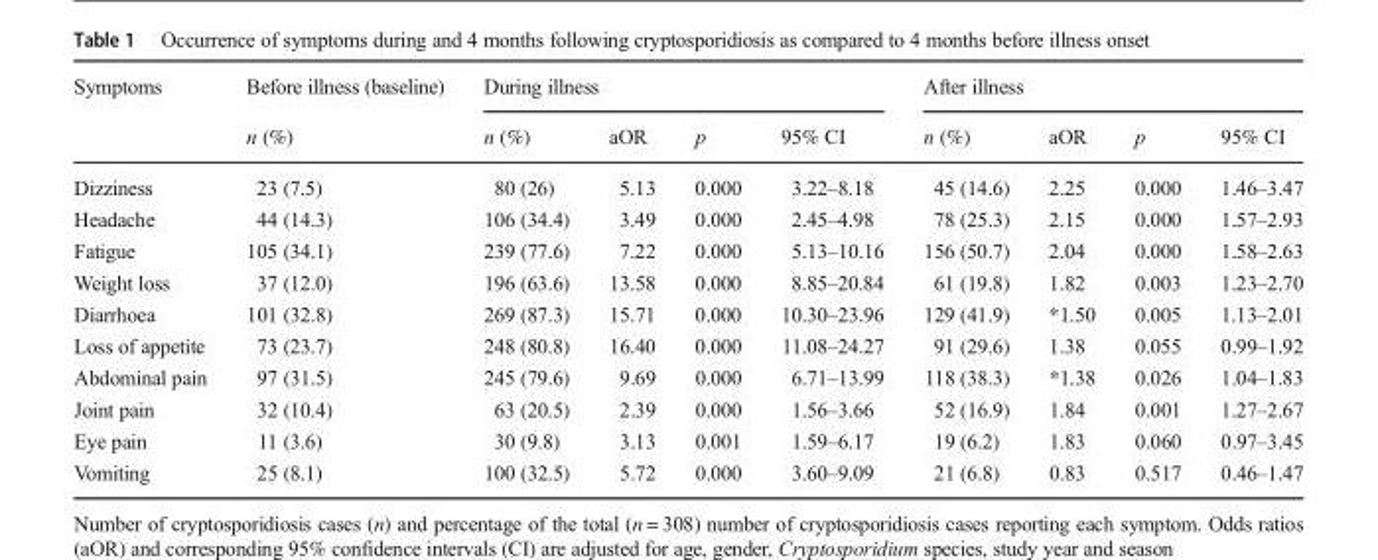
<table><thead><tr><td rowspan="2">Symptoms</td><td rowspan="2">Before illness (baseline) n (%)</td><td colspan="4">During illness</td><td colspan="4">After illness</td></tr><tr><td>n (%)</td><td>aOR</td><td>p</td><td>95% CI</td><td>n (%)</td><td>aOR</td><td>p</td><td>95% CI</td></tr></thead><tbody><tr><td>Dizziness</td><td>23 (7.5)</td><td>80 (26)</td><td>5.13</td><td>0.000</td><td>3.22–8.18</td><td>45 (14.6)</td><td>2.25</td><td>0.000</td><td>1.46–3.47</td></tr><tr><td>Headache</td><td>44 (14.3)</td><td>106 (34.4)</td><td>3.49</td><td>0.000</td><td>2.45–4.98</td><td>78 (25.3)</td><td>2.15</td><td>0.000</td><td>1.57–2.93</td></tr><tr><td>Fatigue</td><td>105 (34.1)</td><td>239 (77.6)</td><td>7.22</td><td>0.000</td><td>5.13–10.16</td><td>156 (50.7)</td><td>2.04</td><td>0.000</td><td>1.58–2.63</td></tr><tr><td>Weight loss</td><td>37 (12.0)</td><td>196 (63.6)</td><td>13.58</td><td>0.000</td><td>8.85–20.84</td><td>61 (19.8)</td><td>1.82</td><td>0.003</td><td>1.23–2.70</td></tr><tr><td>Diarrhoea</td><td>101 (32.8)</td><td>269 (87.3)</td><td>15.71</td><td>0.000</td><td>10.30–23.96</td><td>129 (41.9)</td><td>*1.50</td><td>0.005</td><td>1.13–2.01</td></tr><tr><td>Loss of appetite</td><td>73 (23.7)</td><td>248 (80.8)</td><td>16.40</td><td>0.000</td><td>11.08–24.27</td><td>91 (29.6)</td><td>1.38</td><td>0.055</td><td>0.99–1.92</td></tr><tr><td>Abdominal pain</td><td>97 (31.5)</td><td>245 (79.6)</td><td>9.69</td><td>0.000</td><td>6.71–13.99</td><td>118 (38.3)</td><td>*1.38</td><td>0.026</td><td>1.04–1.83</td></tr><tr><td>Joint pain</td><td>32 (10.4)</td><td>63 (20.5)</td><td>2.39</td><td>0.000</td><td>1.56–3.66</td><td>52 (16.9)</td><td>1.84</td><td>0.001</td><td>1.27–2.67</td></tr><tr><td>Eye pain</td><td>11 (3.6)</td><td>30 (9.8)</td><td>3.13</td><td>0.001</td><td>1.59–6.17</td><td>19 (6.2)</td><td>1.83</td><td>0.060</td><td>0.97–3.45</td></tr><tr><td>Vomiting</td><td>25 (8.1)</td><td>100 (32.5)</td><td>5.72</td><td>0.000</td><td>3.60–9.09</td><td>21 (6.8)</td><td>0.83</td><td>0.517</td><td>0.46–1.47</td></tr></tbody></table>